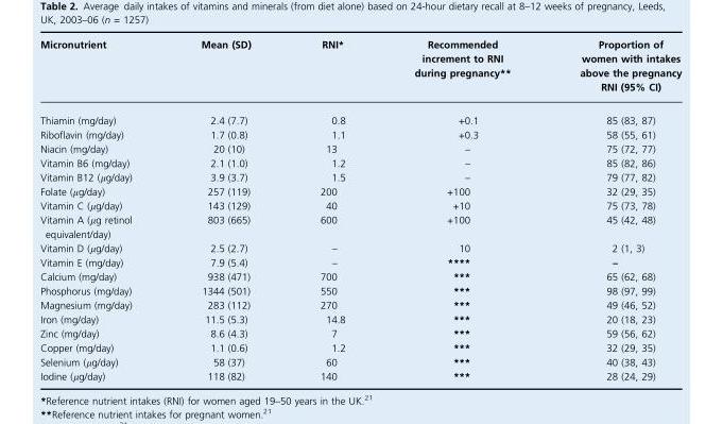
<table><thead><tr><td>Micronutrient</td><td>Mean (SD)</td><td>RNI*</td><td>Recommended increment to RNI during pregnancy**</td><td>Proportion of women with intakes above the pregnancy RNI (95% CI)</td></tr></thead><tbody><tr><td>Thiamin (mg/day)</td><td>2.4 (7.7)</td><td>0.8</td><td>+0.1</td><td>85 (83, 87)</td></tr><tr><td>Riboflavin (mg/day)</td><td>1.7 (0.8)</td><td>1.1</td><td>+0.3</td><td>58 (55, 61)</td></tr><tr><td>Niacin (mg/day)</td><td>20 (10)</td><td>13</td><td>–</td><td>75 (72, 77)</td></tr><tr><td>Vitamin B6 (mg/day)</td><td>2.1 (1.0)</td><td>1.2</td><td>–</td><td>85 (82, 86)</td></tr><tr><td>Vitamin B12 (μg/day)</td><td>3.9 (3.7)</td><td>1.5</td><td>–</td><td>79 (77, 82)</td></tr><tr><td>Folate (μg/day)</td><td>257 (119)</td><td>200</td><td>+100</td><td>32 (29, 35)</td></tr><tr><td>Vitamin C (μg/day)</td><td>143 (129)</td><td>40</td><td>+10</td><td>75 (73, 78)</td></tr><tr><td>Vitamin A (μg retinol equivalent/day)</td><td>803 (665)</td><td>600</td><td>+100</td><td>45 (42, 48)</td></tr><tr><td>Vitamin D (μg/day)</td><td>2.5 (2.7)</td><td>–</td><td>10</td><td>2 (1, 3)</td></tr><tr><td>Vitamin E (mg/day)</td><td>7.9 (5.4)</td><td>–</td><td>****</td><td>–</td></tr><tr><td>Calcium (mg/day)</td><td>938 (471)</td><td>700</td><td>***</td><td>65 (62, 68)</td></tr><tr><td>Phosphorus (mg/day)</td><td>1344 (501)</td><td>550</td><td>***</td><td>98 (97, 99)</td></tr><tr><td>Magnesium (mg/day)</td><td>283 (112)</td><td>270</td><td>***</td><td>49 (46, 52)</td></tr><tr><td>Iron (mg/day)</td><td>11.5 (5.3)</td><td>14.8</td><td>***</td><td>20 (18, 23)</td></tr><tr><td>Zinc (mg/day)</td><td>8.6 (4.3)</td><td>7</td><td>***</td><td>59 (56, 62)</td></tr><tr><td>Copper (mg/day)</td><td>1.1 (0.6)</td><td>1.2</td><td>***</td><td>32 (29, 35)</td></tr><tr><td>Selenium (μg/day)</td><td>58 (37)</td><td>60</td><td>***</td><td>40 (38, 43)</td></tr><tr><td>Iodine (μg/day)</td><td>118 (82)</td><td>140</td><td>***</td><td>28 (24, 29)</td></tr></tbody></table>